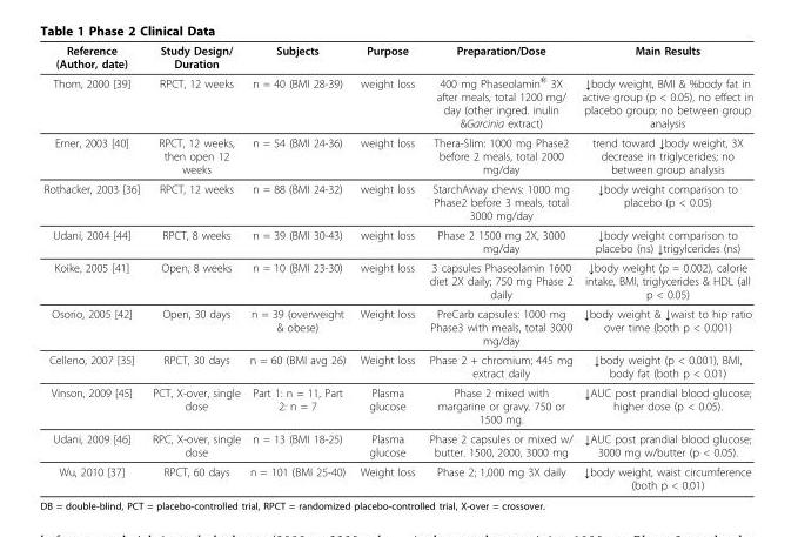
<table><thead><tr><td>Reference (Author, date)</td><td>Study Design/ Duration</td><td>Subjects</td><td>Purpose</td><td>Preparation/Dose</td><td>Main Results</td></tr></thead><tbody><tr><td>Thom, 2000 [39]</td><td>RPCT, 12 weeks</td><td>n = 40 (BMI 28-39)</td><td>weight loss</td><td>400 mg Phaseolamin<sup>®</sup> 3X after meals, total 1200 mg/ day (other ingred. inulin &amp;Garcinia extract)</td><td>↓body weight, BMI &amp; %body fat in active group (p &lt; 0.05), no effect in placebo group; no between group analysis</td></tr><tr><td>Erner, 2003 [40]</td><td>RPCT, 12 weeks, then open 12 weeks</td><td>n = 54 (BMI 24-36)</td><td>weight loss</td><td>Thera-Slim: 1000 mg Phase2 before 2 meals, total 2000 mg/day</td><td>trend toward ↓body weight, 3X decrease in triglycerides; no between group analysis</td></tr><tr><td>Rothacker, 2003 [36]</td><td>RPCT, 12 weeks</td><td>n = 88 (BMI 24-32)</td><td>weight loss</td><td>StarchAway chews: 1000 mg Phase2 before 3 meals, total 3000 mg/day</td><td>↓body weight comparison to placebo (p &lt; 0.05)</td></tr><tr><td>Udani, 2004 [44]</td><td>RPCT, 8 weeks</td><td>n = 39 (BMI 30-43)</td><td>weight loss</td><td>Phase 2 1500 mg 2X, 3000 mg/day</td><td>↓body weight comparison to placebo (ns) ↓trigylcerides (ns)</td></tr><tr><td>Koike, 2005 [41]</td><td>Open, 8 weeks</td><td>n = 10 (BMI 23-30)</td><td>weight loss</td><td>3 capsules Phaseolamin 1600 diet 2X daily; 750 mg Phase 2 daily</td><td>↓body weight (p = 0.002), calorie intake, BMI, triglycerides &amp; HDL (all p &lt; 0.05)</td></tr><tr><td>Osorio, 2005 [42]</td><td>Open, 30 days</td><td>n = 39 (overweight &amp; obese)</td><td>Weight loss</td><td>PreCarb capsules: 1000 mg Phase3 with meals, total 3000 mg/day</td><td>↓body weight &amp; ↓waist to hip ratio over time (both p &lt; 0.001)</td></tr><tr><td>Celleno, 2007 [35]</td><td>RPCT, 30 days</td><td>n = 60 (BMI avg 26)</td><td>Weight loss</td><td>Phase 2 + chromium; 445 mg extract daily</td><td>↓body weight (p &lt; 0.001), BMI, body fat (both p &lt; 0.01)</td></tr><tr><td>Vinson, 2009 [45]</td><td>PCT, X-over, single dose</td><td>Part 1: n = 11, Part 2: n = 7</td><td>Plasma glucose</td><td>Phase 2 mixed with margarine or gravy. 750 or 1500 mg.</td><td>↓AUC post prandial blood glucose; higher dose (p &lt; 0.05).</td></tr><tr><td>Udani, 2009 [46]</td><td>RPC, X-over, single dose</td><td>n = 13 (BMI 18-25)</td><td>Plasma glucose</td><td>Phase 2 capsules or mixed w/ butter. 1500, 2000, 3000 mg</td><td>↓AUC post prandial blood glucose; 3000 mg w/butter (p &lt; 0.05).</td></tr><tr><td>Wu, 2010 [37]</td><td>RPCT, 60 days</td><td>n = 101 (BMI 25-40)</td><td>Weight loss</td><td>Phase 2; 1,000 mg 3X daily</td><td>↓body weight, waist circumference (both p &lt; 0.01)</td></tr></tbody></table>